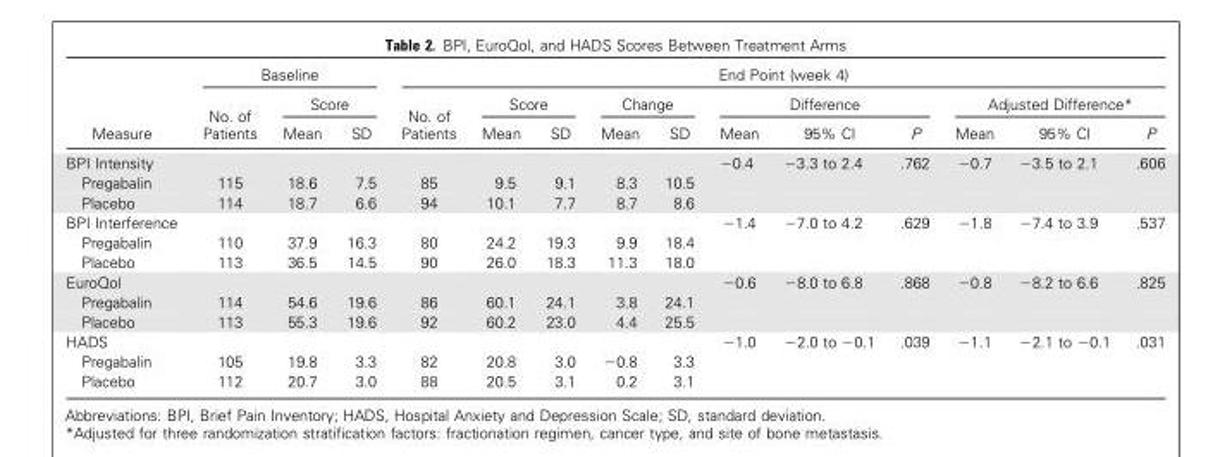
<table><thead><tr><td rowspan="3">Measure</td><td colspan="3">Baseline</td><td colspan="11">End Point (week 4)</td></tr><tr><td rowspan="2">No. of Patients</td><td colspan="2">Score</td><td rowspan="2">No. of Patients</td><td colspan="2">Score</td><td colspan="2">Change</td><td colspan="3">Difference</td><td colspan="3">Adjusted Difference*</td></tr><tr><td>Mean</td><td>SD</td><td>Mean</td><td>SD</td><td>Mean</td><td>SD</td><td>Mean</td><td>95% CI</td><td>P</td><td>Mean</td><td>95% CI</td><td>P</td></tr></thead><tbody><tr><td>BPI Intensity</td><td></td><td></td><td></td><td></td><td></td><td></td><td></td><td></td><td>−0.4</td><td>−3.3 to 2.4</td><td>.762</td><td>−0.7</td><td>−3.5 to 2.1</td><td>.606</td></tr><tr><td>Pregabalin</td><td>115</td><td>18.6</td><td>7.5</td><td>85</td><td>9.5</td><td>9.1</td><td>8.3</td><td>10.5</td><td></td><td></td><td></td><td></td><td></td><td></td></tr><tr><td>Placebo</td><td>114</td><td>18.7</td><td>6.6</td><td>94</td><td>10.1</td><td>7.7</td><td>8.7</td><td>8.6</td><td></td><td></td><td></td><td></td><td></td><td></td></tr><tr><td>BPI Interference</td><td></td><td></td><td></td><td></td><td></td><td></td><td></td><td></td><td>−1.4</td><td>−7.0 to 4.2</td><td>.629</td><td>−1.8</td><td>−7.4 to 3.9</td><td>.537</td></tr><tr><td>Pregabalin</td><td>110</td><td>37.9</td><td>16.3</td><td>80</td><td>24.2</td><td>19.3</td><td>9.9</td><td>18.4</td><td></td><td></td><td></td><td></td><td></td><td></td></tr><tr><td>Placebo</td><td>113</td><td>36.5</td><td>14.5</td><td>90</td><td>26.0</td><td>18.3</td><td>11.3</td><td>18.0</td><td></td><td></td><td></td><td></td><td></td><td></td></tr><tr><td>EuroQol</td><td></td><td></td><td></td><td></td><td></td><td></td><td></td><td></td><td>−0.6</td><td>−8.0 to 6.8</td><td>.868</td><td>−0.8</td><td>−8.2 to 6.6</td><td>.825</td></tr><tr><td>Pregabalin</td><td>114</td><td>54.6</td><td>19.6</td><td>86</td><td>60.1</td><td>24.1</td><td>3.8</td><td>24.1</td><td></td><td></td><td></td><td></td><td></td><td></td></tr><tr><td>Placebo</td><td>113</td><td>55.3</td><td>19.6</td><td>92</td><td>60.2</td><td>23.0</td><td>4.4</td><td>25.5</td><td></td><td></td><td></td><td></td><td></td><td></td></tr><tr><td>HADS</td><td></td><td></td><td></td><td></td><td></td><td></td><td></td><td></td><td>−1.0</td><td>−2.0 to −0.1</td><td>.039</td><td>−1.1</td><td>−2.1 to −0.1</td><td>.031</td></tr><tr><td>Pregabalin</td><td>105</td><td>19.8</td><td>3.3</td><td>82</td><td>20.8</td><td>3.0</td><td>−0.8</td><td>3.3</td><td></td><td></td><td></td><td></td><td></td><td></td></tr><tr><td>Placebo</td><td>112</td><td>20.7</td><td>3.0</td><td>88</td><td>20.5</td><td>3.1</td><td>0.2</td><td>3.1</td><td></td><td></td><td></td><td></td><td></td><td></td></tr></tbody></table>